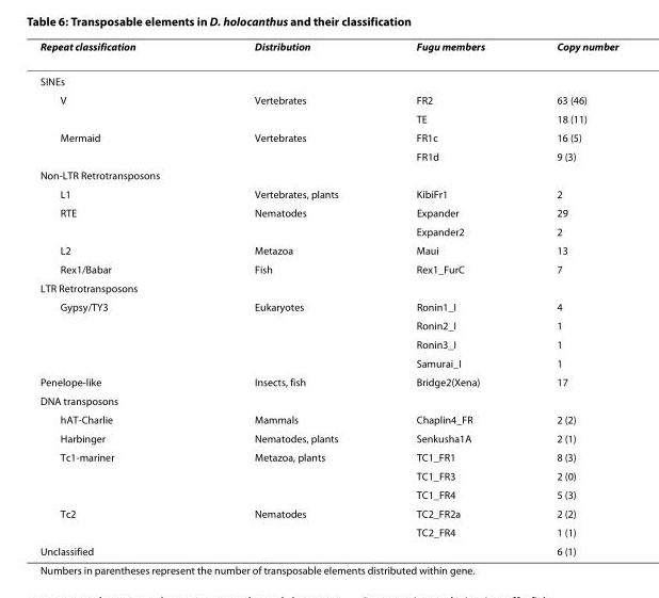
<table><thead><tr><td>Repeat classification</td><td>Distribution</td><td>Fugu members</td><td>Copy number</td></tr></thead><tbody><tr><td colspan="4">SINEs</td></tr><tr><td rowspan="2">V</td><td>Vertebrates</td><td>FR2</td><td>63 (46)</td></tr><tr><td></td><td>TE</td><td>18 (11)</td></tr><tr><td rowspan="2">Mermaid</td><td>Vertebrates</td><td>FR1c</td><td>16 (5)</td></tr><tr><td></td><td>FR1d</td><td>9 (3)</td></tr><tr><td colspan="4">Non-LTR Retrotransposons</td></tr><tr><td>L1</td><td>Vertebrates, plants</td><td>KibiFr1</td><td>2</td></tr><tr><td rowspan="2">RTE</td><td>Nematodes</td><td>Expander</td><td>29</td></tr><tr><td></td><td>Expander2</td><td>2</td></tr><tr><td>L2</td><td>Metazoa</td><td>Maui</td><td>13</td></tr><tr><td>Rex1/Babar</td><td>Fish</td><td>Rex1_FurC</td><td>7</td></tr><tr><td colspan="4">LTR Retrotransposons</td></tr><tr><td rowspan="4">Gypsy/TY3</td><td>Eukaryotes</td><td>Ronin1_I</td><td>4</td></tr><tr><td></td><td>Ronin2_I</td><td>1</td></tr><tr><td></td><td>Ronin3_I</td><td>1</td></tr><tr><td></td><td>Samurai_I</td><td>1</td></tr><tr><td>Penelope-like</td><td>Insects, fish</td><td>Bridge2(Xena)</td><td>17</td></tr><tr><td colspan="4">DNA transposons</td></tr><tr><td>hAT-Charlie</td><td>Mammals</td><td>Chaplin4_FR</td><td>2 (2)</td></tr><tr><td>Harbinger</td><td>Nematodes, plants</td><td>Senkusha1A</td><td>2 (1)</td></tr><tr><td rowspan="3">Tc1-mariner</td><td>Metazoa, plants</td><td>TC1_FR1</td><td>8 (3)</td></tr><tr><td></td><td>TC1_FR3</td><td>2 (0)</td></tr><tr><td></td><td>TC1_FR4</td><td>5 (3)</td></tr><tr><td rowspan="2">Tc2</td><td>Nematodes</td><td>TC2_FR2a</td><td>2 (2)</td></tr><tr><td></td><td>TC2_FR4</td><td>1 (1)</td></tr><tr><td>Unclassified</td><td></td><td></td><td>6 (1)</td></tr></tbody></table>